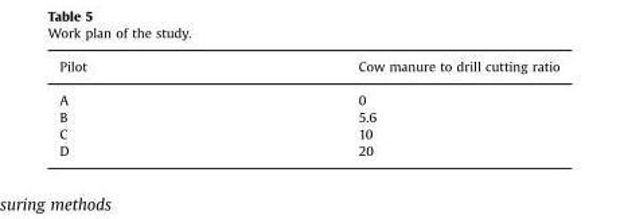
<table><thead><tr><td>Pilot</td><td>Cow manure to drill cutting ratio</td></tr></thead><tbody><tr><td>A</td><td>0</td></tr><tr><td>B</td><td>5.6</td></tr><tr><td>C</td><td>10</td></tr><tr><td>D</td><td>20</td></tr></tbody></table>